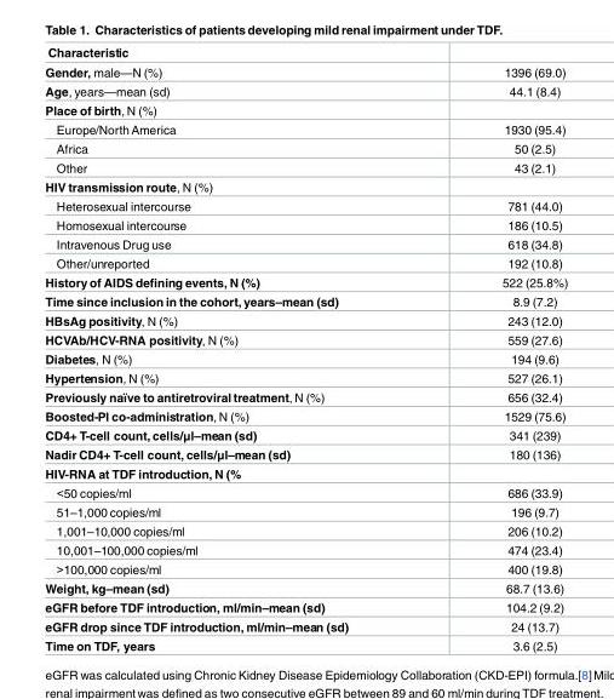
<table><thead><tr><td>Characteristic</td><td></td></tr></thead><tbody><tr><td>Gender, male—N (%)</td><td>1396 (69.0)</td></tr><tr><td>Age, years—mean (sd)</td><td>44.1 (8.4)</td></tr><tr><td colspan="2">Place of birth, N (%)</td></tr><tr><td>Europe/NorthAmerica</td><td>1930 (95.4)</td></tr><tr><td>Africa</td><td>50 (2.5)</td></tr><tr><td>Other</td><td>43 (2.1)</td></tr><tr><td colspan="2">HIV transmission route, N (%)</td></tr><tr><td>Heterosexual intercourse</td><td>781 (44.0)</td></tr><tr><td>Homosexual intercourse</td><td>186 (10.5)</td></tr><tr><td>Intravenous Drug use</td><td>618 (34.8)</td></tr><tr><td>Other/unreported</td><td>192 (10.8)</td></tr><tr><td>History of AIDS defining events, N (%)</td><td>522 (25.8%)</td></tr><tr><td>Time since inclusion in the cohort, years–mean (sd)</td><td>8.9 (7.2)</td></tr><tr><td>HBsAg positivity, N (%)</td><td>243 (12.0)</td></tr><tr><td>HCVAb/HCV-RNA positivity, N (%)</td><td>559 (27.6)</td></tr><tr><td>Diabetes, N (%)</td><td>194 (9.6)</td></tr><tr><td>Hypertension, N (%)</td><td>527 (26.1)</td></tr><tr><td>Previously naïve to antiretroviral treatment, N (%)</td><td>656 (32.4)</td></tr><tr><td>Boosted-PI co-administration, N (%)</td><td>1529 (75.6)</td></tr><tr><td>CD4+ T-cell count, cells/μl–mean (sd)</td><td>341 (239)</td></tr><tr><td>Nadir CD4+ T-cell count, cells/μl–mean (sd)</td><td>180 (136)</td></tr><tr><td colspan="2">HIV-RNA at TDF introduction, N (%</td></tr><tr><td>&lt;50 copies/ml</td><td>686 (33.9)</td></tr><tr><td>51–1,000 copies/ml</td><td>196 (9.7)</td></tr><tr><td>1,001–10,000 copies/ml</td><td>206 (10.2)</td></tr><tr><td>10,001–100,000 copies/ml</td><td>474 (23.4)</td></tr><tr><td>&gt;100,000 copies/ml</td><td>400 (19.8)</td></tr><tr><td>Weight, kg–mean (sd)</td><td>68.7 (13.6)</td></tr><tr><td>eGFR before TDF introduction, ml/min–mean (sd)</td><td>104.2 (9.2)</td></tr><tr><td>eGFR drop since TDF introduction, ml/min–mean (sd)</td><td>24 (13.7)</td></tr><tr><td>Time on TDF, years</td><td>3.6 (2.5)</td></tr></tbody></table>